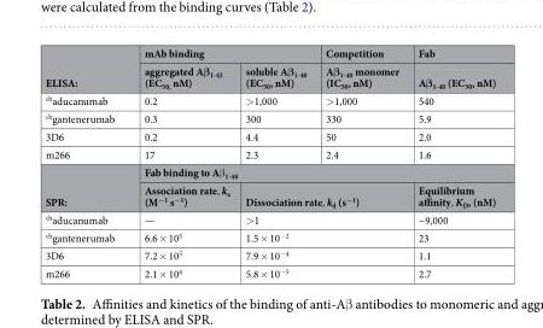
<table><thead><tr><td rowspan="2">ELISA:</td><td colspan="2">mAb binding</td><td rowspan="2">Competition Aβ<sub>1-40</sub> monomer (IC<sub>50</sub>, nM)</td><td rowspan="2">Fab Aβ<sub>1-40</sub> (EC<sub>50</sub>, nM)</td></tr><tr><td>aggregated Aβ<sub>1-42</sub> (EC<sub>50,</sub> nM)</td><td>soluble Aβ<sub>1-40</sub> (EC<sub>50</sub>, nM)</td></tr></thead><tbody><tr><td><sup>ch</sup>aducanumab</td><td>0.2</td><td>&gt;1,000</td><td>&gt;1,000</td><td>540</td></tr><tr><td><sup>ch</sup>gantenerumab</td><td>0.3</td><td>300</td><td>330</td><td>5.9</td></tr><tr><td>3D6</td><td>0.2</td><td>4.4</td><td>50</td><td>2.0</td></tr><tr><td>m266</td><td>17</td><td>2.3</td><td>2.4</td><td>1.6</td></tr><tr><td rowspan="2">SPR:</td><td colspan="4">Fab binding to Aβ<sub>1-40</sub></td></tr><tr><td>Association rate, k<sub>a</sub> (M<sup>−1</sup> s<sup>−1</sup>)</td><td colspan="2">Dissociation rate, k<sub>d</sub> (s<sup>−1</sup>)</td><td>Equilibrium affinity, K<sub>D</sub>, (nM)</td></tr><tr><td><sup>ch</sup>aducanumab</td><td>—</td><td colspan="2">&gt;1</td><td>~9,000</td></tr><tr><td><sup>ch</sup>gantenerumab</td><td>6.6 × 10<sup>5</sup></td><td colspan="2">1.5 × 10<sup>−2</sup></td><td>23</td></tr><tr><td>3D6</td><td>7.2 × 10<sup>5</sup></td><td colspan="2">7.9 × 10<sup>−4</sup></td><td>1.1</td></tr><tr><td>m266</td><td>2.1 × 10<sup>4</sup></td><td colspan="2">5.8 × 10<sup>−5</sup></td><td>2.7</td></tr></tbody></table>